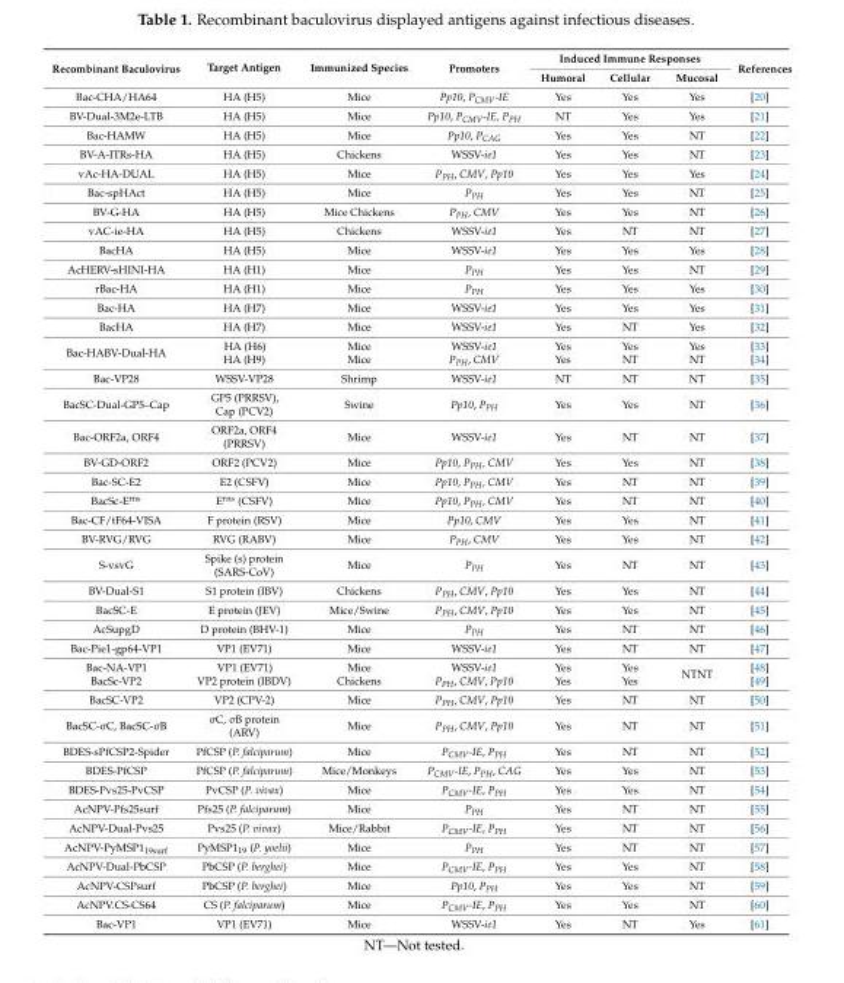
<table><thead><tr><td rowspan="2">Recombinant Baculovirus</td><td rowspan="2">Target Antigen</td><td rowspan="2">Immunized Species</td><td rowspan="2">Promoters</td><td colspan="3">Induced Immune Responses</td><td rowspan="2">References</td></tr><tr><td>Humoral</td><td>Cellular</td><td>Mucosal</td></tr></thead><tbody><tr><td>Bac-CHA/HA64</td><td>HA (H5)</td><td>Mice</td><td>Pp10, P<sub>CMV</sub>-IE</td><td>Yes</td><td>Yes</td><td>Yes</td><td>[20]</td></tr><tr><td>BV-Dual-3M2e-LTB</td><td>HA (H5)</td><td>Mice</td><td>Pp10, P<sub>CMV</sub>-IE, P<sub>PH</sub></td><td>NT</td><td>Yes</td><td>Yes</td><td>[21]</td></tr><tr><td>Bac-HAMW</td><td>HA (H5)</td><td>Mice</td><td>Pp10, P<sub>CAG</sub></td><td>Yes</td><td>Yes</td><td>NT</td><td>[22]</td></tr><tr><td>BV-A-ITRs-HA</td><td>HA (H5)</td><td>Chickens</td><td>WSSV-ie1</td><td>Yes</td><td>Yes</td><td>NT</td><td>[23]</td></tr><tr><td>vAc-HA-DUAL</td><td>HA (H5)</td><td>Mice</td><td>P<sub>PH</sub>, CMV, Pp10</td><td>Yes</td><td>Yes</td><td>Yes</td><td>[24]</td></tr><tr><td>Bac-spHAct</td><td>HA (H5)</td><td>Mice</td><td>P<sub>PH</sub></td><td>Yes</td><td>Yes</td><td>NT</td><td>[25]</td></tr><tr><td>BV-G-HA</td><td>HA (H5)</td><td>Mice Chickens</td><td>P<sub>PH</sub>, CMV</td><td>Yes</td><td>Yes</td><td>NT</td><td>[26]</td></tr><tr><td>vAC-ie-HA</td><td>HA (H5)</td><td>Chickens</td><td>WSSV-ie1</td><td>Yes</td><td>NT</td><td>NT</td><td>[27]</td></tr><tr><td>BacHA</td><td>HA (H5)</td><td>Mice</td><td>WSSV-ie1</td><td>Yes</td><td>Yes</td><td>Yes</td><td>[28]</td></tr><tr><td>AcHERV-sHINI-HA</td><td>HA (H1)</td><td>Mice</td><td>P<sub>PH</sub></td><td>Yes</td><td>Yes</td><td>NT</td><td>[29]</td></tr><tr><td>rBac-HA</td><td>HA (H1)</td><td>Mice</td><td>P<sub>PH</sub></td><td>Yes</td><td>Yes</td><td>Yes</td><td>[30]</td></tr><tr><td>Bac-HA</td><td>HA (H7)</td><td>Mice</td><td>WSSV-ie1</td><td>Yes</td><td>Yes</td><td>Yes</td><td>[31]</td></tr><tr><td>BacHA</td><td>HA (H7)</td><td>Mice</td><td>WSSV-ie1</td><td>Yes</td><td>NT</td><td>Yes</td><td>[32]</td></tr><tr><td>Bac-HABV-Dual-HA</td><td>HA (H6) HA (H9)</td><td>Mice Mice</td><td>WSSV-ie1 P<sub>PH</sub>, CMV</td><td>Yes Yes</td><td>Yes NT</td><td>Yes NT</td><td>[33] [34]</td></tr><tr><td>Bac-VP28</td><td>WSSV-VP28</td><td>Shrimp</td><td>WSSV-ie1</td><td>NT</td><td>NT</td><td>NT</td><td>[35]</td></tr><tr><td>BacSC-Dual-GP5–Cap</td><td>GP5 (PRRSV), Cap (PCV2)</td><td>Swine</td><td>Pp10, P<sub>PH</sub></td><td>Yes</td><td>Yes</td><td>NT</td><td>[36]</td></tr><tr><td>Bac-ORF2a, ORF4</td><td>ORF2a, ORF4 (PRRSV)</td><td>Mice</td><td>WSSV-ie1</td><td>Yes</td><td>NT</td><td>NT</td><td>[37]</td></tr><tr><td>BV-GD-ORF2</td><td>ORF2 (PCV2)</td><td>Mice</td><td>Pp10, P<sub>PH</sub>, CMV</td><td>Yes</td><td>Yes</td><td>NT</td><td>[38]</td></tr><tr><td>Bac-SC-E2</td><td>E2 (CSFV)</td><td>Mice</td><td>Pp10, P<sub>PH</sub>, CMV</td><td>Yes</td><td>NT</td><td>NT</td><td>[39]</td></tr><tr><td>BacSc-E<sup>rns</sup></td><td>E<sup>rns</sup> (CSFV)</td><td>Mice</td><td>Pp10, P<sub>PH</sub>, CMV</td><td>Yes</td><td>NT</td><td>NT</td><td>[40]</td></tr><tr><td>Bac-CF/tF64-VISA</td><td>F protein (RSV)</td><td>Mice</td><td>Pp10, CMV</td><td>Yes</td><td>Yes</td><td>NT</td><td>[41]</td></tr><tr><td>BV-RVG/RVG</td><td>RVG (RABV)</td><td>Mice</td><td>P<sub>PH</sub>, CMV</td><td>Yes</td><td>Yes</td><td>NT</td><td>[42]</td></tr><tr><td>S-vsvG</td><td>Spike (s) protein (SARS-CoV)</td><td>Mice</td><td>P<sub>PH</sub></td><td>Yes</td><td>NT</td><td>NT</td><td>[43]</td></tr><tr><td>BV-Dual-S1</td><td>S1 protein (IBV)</td><td>Chickens</td><td>P<sub>PH</sub>, CMV, Pp10</td><td>Yes</td><td>Yes</td><td>NT</td><td>[44]</td></tr><tr><td>BacSC-E</td><td>E protein (JEV)</td><td>Mice/Swine</td><td>P<sub>PH</sub>, CMV, Pp10</td><td>Yes</td><td>Yes</td><td>NT</td><td>[45]</td></tr><tr><td>AcSupgD</td><td>D protein (BHV-1)</td><td>Mice</td><td>P<sub>PH</sub></td><td>Yes</td><td>NT</td><td>NT</td><td>[46]</td></tr><tr><td>Bac-Pie1-gp64-VP1</td><td>VP1 (EV71)</td><td>Mice</td><td>WSSV-ie1</td><td>Yes</td><td>NT</td><td>NT</td><td>[47]</td></tr><tr><td>Bac-NA-VP1 BacSc-VP2</td><td>VP1 (EV71) VP2 protein (IBDV)</td><td>Mice Chickens</td><td>WSSV-ie1 P<sub>PH</sub>, CMV, Pp10</td><td>Yes Yes</td><td>Yes Yes</td><td>NTNT</td><td>[48] [49]</td></tr><tr><td>BacSC-VP2</td><td>VP2 (CPV-2)</td><td>Mice</td><td>P<sub>PH</sub>, CMV, Pp10</td><td>Yes</td><td>NT</td><td>NT</td><td>[50]</td></tr><tr><td>BacSC-σC, BacSC-σB</td><td>σC, σB protein (ARV)</td><td>Mice</td><td>P<sub>PH</sub>, CMV, Pp10</td><td>Yes</td><td>NT</td><td>NT</td><td>[51]</td></tr><tr><td>BDES-sPfCSP2-Spider</td><td>PfCSP (P. falciparum)</td><td>Mice</td><td>P<sub>CMV</sub>-IE, P<sub>PH</sub></td><td>Yes</td><td>NT</td><td>NT</td><td>[52]</td></tr><tr><td>BDES-PfCSP</td><td>PfCSP (P. falciparum)</td><td>Mice/Monkeys</td><td>P<sub>CMV</sub>-IE, P<sub>PH</sub>, CAG</td><td>Yes</td><td>Yes</td><td>NT</td><td>[53]</td></tr><tr><td>BDES-Pvs25-PvCSP</td><td>PvCSP (P. vivax)</td><td>Mice</td><td>P<sub>CMV</sub>-IE, P<sub>PH</sub></td><td>Yes</td><td>Yes</td><td>NT</td><td>[54]</td></tr><tr><td>AcNPV-Pfs25surf</td><td>Pfs25 (P. falciparum)</td><td>Mice</td><td>P<sub>PH</sub></td><td>Yes</td><td>NT</td><td>NT</td><td>[55]</td></tr><tr><td>AcNPV-Dual-Pvs25</td><td>Pvs25 (P. vivax)</td><td>Mice/Rabbit</td><td>P<sub>CMV</sub>-IE, P<sub>PH</sub></td><td>Yes</td><td>NT</td><td>NT</td><td>[56]</td></tr><tr><td>AcNPV-PyMSP1<sub>19surf</sub></td><td>PyMSP1<sub>19</sub> (P. yoelii)</td><td>Mice</td><td>P<sub>PH</sub></td><td>Yes</td><td>NT</td><td>NT</td><td>[57]</td></tr><tr><td>AcNPV-Dual-PbCSP</td><td>PbCSP (P. berghei)</td><td>Mice</td><td>P<sub>CMV</sub>-IE, P<sub>PH</sub></td><td>Yes</td><td>Yes</td><td>NT</td><td>[58]</td></tr><tr><td>AcNPV-CSPsurf</td><td>PbCSP (P. berghei)</td><td>Mice</td><td>Pp10, P<sub>PH</sub></td><td>Yes</td><td>Yes</td><td>NT</td><td>[59]</td></tr><tr><td>AcNPV.CS-CS64</td><td>CS (P. falciparum)</td><td>Mice</td><td>P<sub>CMV</sub>-IE, P<sub>PH</sub></td><td>Yes</td><td>Yes</td><td>NT</td><td>[60]</td></tr><tr><td>Bac-VP1</td><td>VP1 (EV71)</td><td>Mice</td><td>WSSV-ie1</td><td>Yes</td><td>NT</td><td>Yes</td><td>[61]</td></tr></tbody></table>